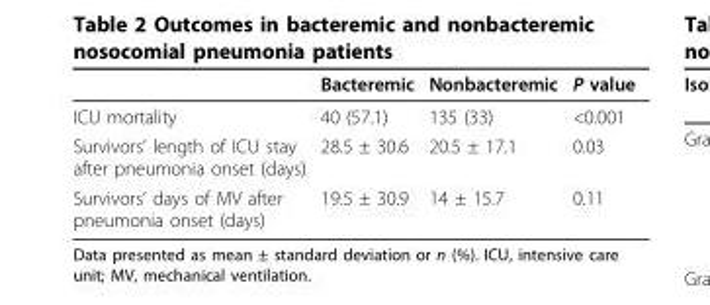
<table><thead><tr><td></td><td>Bacteremic</td><td>Nonbacteremic</td><td>P value</td></tr></thead><tbody><tr><td>ICU mortality</td><td>40 (57.1)</td><td>135 (33)</td><td>&lt;0.001</td></tr><tr><td>Survivors’ length of ICU stay after pneumonia onset (days)</td><td>28.5 ± 30.6</td><td>20.5 ± 17.1</td><td>0.03</td></tr><tr><td>Survivors’ days of MV after pneumonia onset (days)</td><td>19.5 ± 30.9</td><td>14 ± 15.7</td><td>0.11</td></tr></tbody></table>